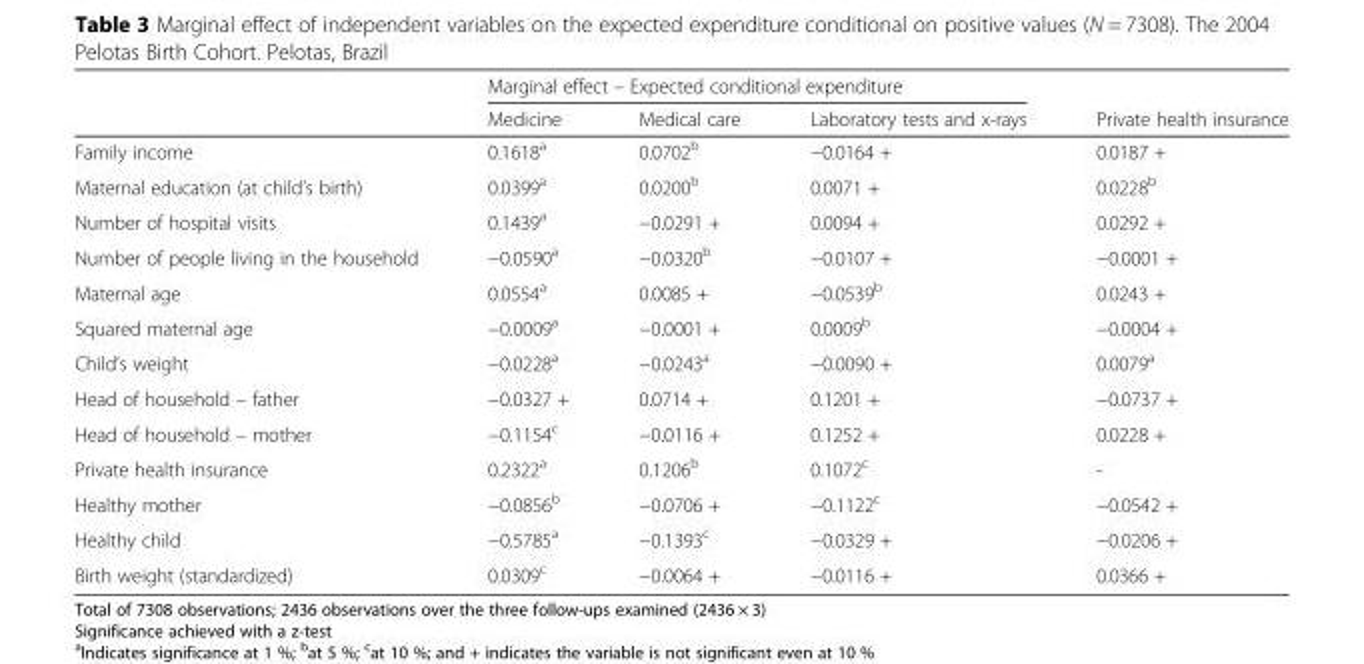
<table><thead><tr><td rowspan="2"></td><td colspan="3">Marginal effect – Expected conditional expenditure</td><td rowspan="2">Private health insurance</td></tr><tr><td>Medicine</td><td>Medical care</td><td>Laboratory tests and x-rays</td></tr></thead><tbody><tr><td>Family income</td><td>0.1618<sup>a</sup></td><td>0.0702<sup>b</sup></td><td>−0.0164 +</td><td>0.0187 +</td></tr><tr><td>Maternal education (at child’s birth)</td><td>0.0399<sup>a</sup></td><td>0.0200<sup>b</sup></td><td>0.0071 +</td><td>0.0228<sup>b</sup></td></tr><tr><td>Number of hospital visits</td><td>0.1439<sup>a</sup></td><td>−0.0291 +</td><td>0.0094 +</td><td>0.0292 +</td></tr><tr><td>Number of people living in the household</td><td>−0.0590<sup>a</sup></td><td>−0.0320<sup>b</sup></td><td>−0.0107 +</td><td>−0.0001 +</td></tr><tr><td>Maternal age</td><td>0.0554<sup>a</sup></td><td>0.0085 +</td><td>−0.0539<sup>b</sup></td><td>0.0243 +</td></tr><tr><td>Squared maternal age</td><td>−0.0009<sup>a</sup></td><td>−0.0001 +</td><td>0.0009<sup>b</sup></td><td>−0.0004 +</td></tr><tr><td>Child’s weight</td><td>−0.0228<sup>a</sup></td><td>−0.0243<sup>a</sup></td><td>−0.0090 +</td><td>0.0079<sup>a</sup></td></tr><tr><td>Head of household – father</td><td>−0.0327 +</td><td>0.0714 +</td><td>0.1201 +</td><td>−0.0737 +</td></tr><tr><td>Head of household – mother</td><td>−0.1154<sup>c</sup></td><td>−0.0116 +</td><td>0.1252 +</td><td>0.0228 +</td></tr><tr><td>Private health insurance</td><td>0.2322<sup>a</sup></td><td>0.1206<sup>b</sup></td><td>0.1072<sup>c</sup></td><td>-</td></tr><tr><td>Healthy mother</td><td>−0.0856<sup>b</sup></td><td>−0.0706 +</td><td>−0.1122<sup>c</sup></td><td>−0.0542 +</td></tr><tr><td>Healthy child</td><td>−0.5785<sup>a</sup></td><td>−0.1393<sup>c</sup></td><td>−0.0329 +</td><td>−0.0206 +</td></tr><tr><td>Birth weight (standardized)</td><td>0.0309<sup>c</sup></td><td>−0.0064 +</td><td>−0.0116 +</td><td>0.0366 +</td></tr></tbody></table>